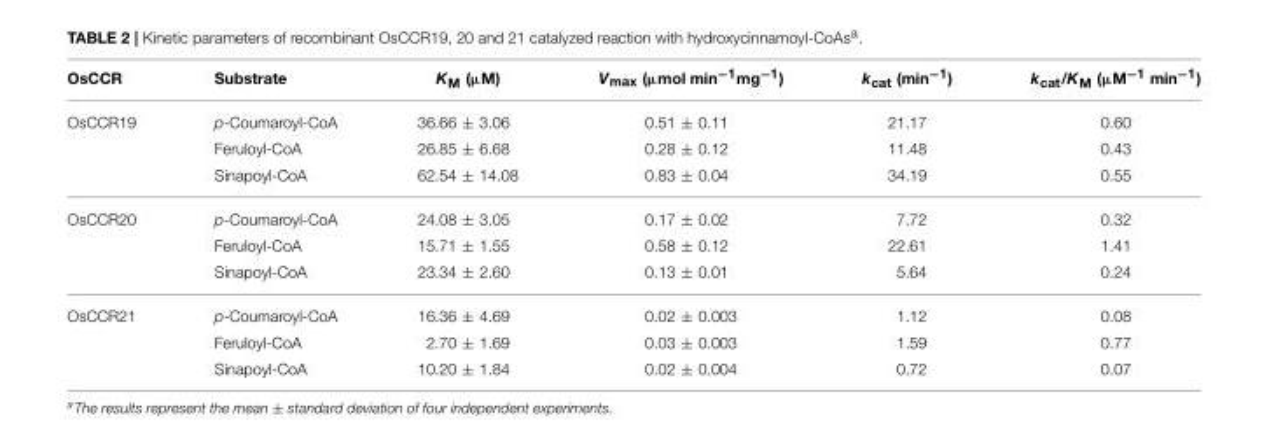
<table><thead><tr><td>OsCCR</td><td>Substrate</td><td>K<sub>M</sub> (µM)</td><td>V<sub>max</sub> (µmol min<sup>−1</sup>mg<sup>−1</sup>)</td><td>k<sub>cat</sub> (min<sup>−1</sup>)</td><td>k<sub>cat</sub>/K<sub>M</sub> (µM<sup>−1</sup> min<sup>−1</sup>)</td></tr></thead><tbody><tr><td rowspan="3">OsCCR19</td><td>p-Coumaroyl-CoA</td><td>36.66 ± 3.06</td><td>0.51 ± 0.11</td><td>21.17</td><td>0.60</td></tr><tr><td>Feruloyl-CoA</td><td>26.85 ± 6.68</td><td>0.28 ± 0.12</td><td>11.48</td><td>0.43</td></tr><tr><td>Sinapoyl-CoA</td><td>62.54 ± 14.08</td><td>0.83 ± 0.04</td><td>34.19</td><td>0.55</td></tr><tr><td rowspan="3">OsCCR20</td><td>p-Coumaroyl-CoA</td><td>24.08 ± 3.05</td><td>0.17 ± 0.02</td><td>7.72</td><td>0.32</td></tr><tr><td>Feruloyl-CoA</td><td>15.71 ± 1.55</td><td>0.58 ± 0.12</td><td>22.61</td><td>1.41</td></tr><tr><td>Sinapoyl-CoA</td><td>23.34 ± 2.60</td><td>0.13 ± 0.01</td><td>5.64</td><td>0.24</td></tr><tr><td rowspan="3">OsCCR21</td><td>p-Coumaroyl-CoA</td><td>16.36 ± 4.69</td><td>0.02 ± 0.003</td><td>1.12</td><td>0.08</td></tr><tr><td>Feruloyl-CoA</td><td>2.70 ± 1.69</td><td>0.03 ± 0.003</td><td>1.59</td><td>0.77</td></tr><tr><td>Sinapoyl-CoA</td><td>10.20 ± 1.84</td><td>0.02 ± 0.004</td><td>0.72</td><td>0.07</td></tr></tbody></table>